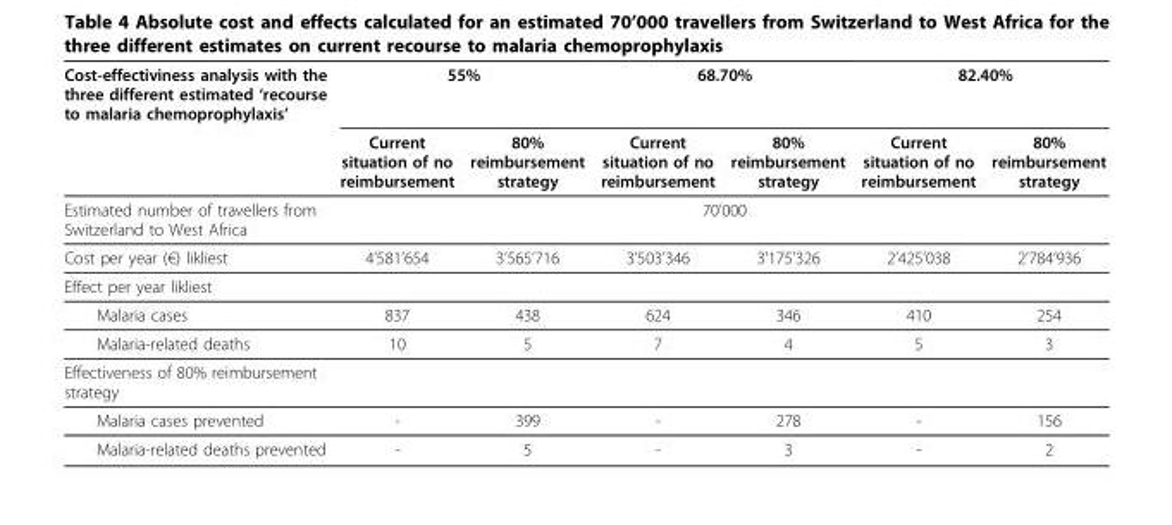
<table><thead><tr><td rowspan="2">Cost-effectiviness analysis with the three different estimated ‘recourse to malaria chemoprophylaxis’</td><td colspan="2">55%</td><td colspan="2">68.70%</td><td colspan="2">82.40%</td></tr><tr><td>Current situation of no reimbursement</td><td>80% reimbursement strategy</td><td>Current situation of no reimbursement</td><td>80% reimbursement strategy</td><td>Current situation of no reimbursement</td><td>80% reimbursement strategy</td></tr></thead><tbody><tr><td>Estimated number of travellers from Switzerland to West Africa</td><td colspan="6">70’000</td></tr><tr><td>Cost per year (€) likliest</td><td>4’581’654</td><td>3’565’716</td><td>3’503’346</td><td>3’175’326</td><td>2’425’038</td><td>2’784’936</td></tr><tr><td colspan="7">Effect per year likliest</td></tr><tr><td>Malaria cases</td><td>837</td><td>438</td><td>624</td><td>346</td><td>410</td><td>254</td></tr><tr><td>Malaria-related deaths</td><td>10</td><td>5</td><td>7</td><td>4</td><td>5</td><td>3</td></tr><tr><td colspan="7">Effectiveness of 80% reimbursement strategy</td></tr><tr><td>Malaria cases prevented</td><td>-</td><td>399</td><td>-</td><td>278</td><td>-</td><td>156</td></tr><tr><td>Malaria-related deaths prevented</td><td>-</td><td>5</td><td>-</td><td>3</td><td>-</td><td>2</td></tr></tbody></table>